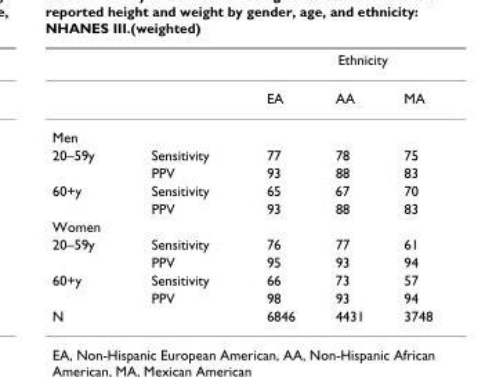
<table><thead><tr><td rowspan="2"></td><td rowspan="2"></td><td colspan="3">Ethnicity</td></tr><tr><td>EA</td><td>AA</td><td>MA</td></tr></thead><tbody><tr><td colspan="5">Men</td></tr><tr><td rowspan="2">20–59y</td><td>Sensitivity</td><td>77</td><td>78</td><td>75</td></tr><tr><td>PPV</td><td>93</td><td>88</td><td>83</td></tr><tr><td rowspan="2">60+y</td><td>Sensitivity</td><td>65</td><td>67</td><td>70</td></tr><tr><td>PPV</td><td>93</td><td>88</td><td>83</td></tr><tr><td colspan="5">Women</td></tr><tr><td rowspan="2">20–59y</td><td>Sensitivity</td><td>76</td><td>77</td><td>61</td></tr><tr><td>PPV</td><td>95</td><td>93</td><td>94</td></tr><tr><td rowspan="2">60+y</td><td>Sensitivity</td><td>66</td><td>73</td><td>57</td></tr><tr><td>PPV</td><td>98</td><td>93</td><td>94</td></tr><tr><td>N</td><td></td><td>6846</td><td>4431</td><td>3748</td></tr></tbody></table>